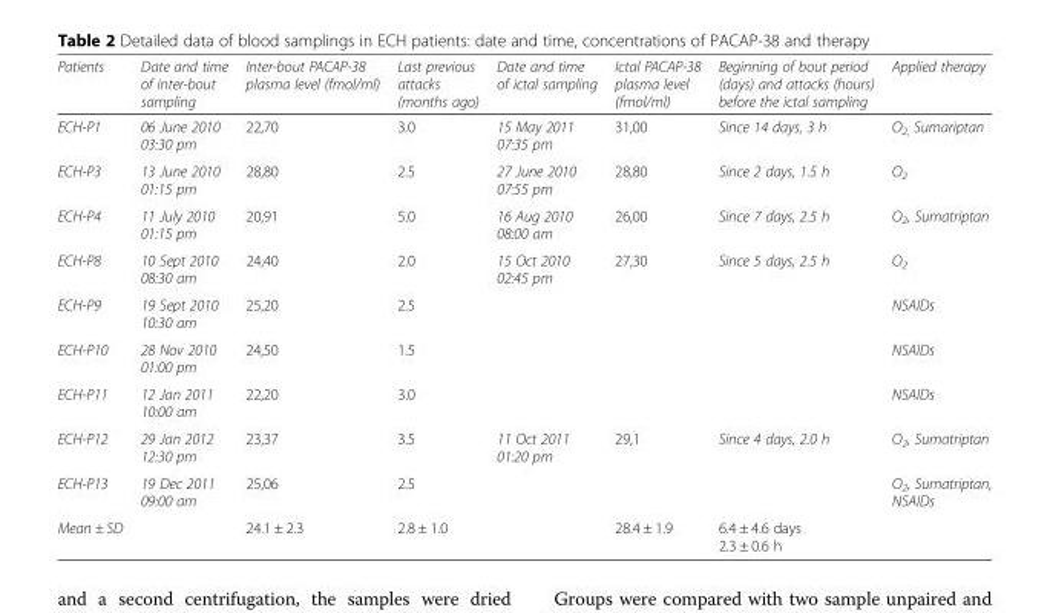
<table><thead><tr><td>Patients</td><td>Date and time of inter-bout sampling</td><td>Inter-bout PACAP-38 plasma level (fmol/ml)</td><td>Last previous attacks (months ago)</td><td>Date and time of ictal sampling</td><td>Ictal PACAP-38 plasma level (fmol/ml)</td><td>Beginning of bout period (days) and attacks (hours) before the ictal sampling</td><td>Applied therapy</td></tr></thead><tbody><tr><td>ECH-P1</td><td>06 June 2010 03:30 pm</td><td>22,70</td><td>3.0</td><td>15 May 2011 07:35 pm</td><td>31,00</td><td>Since 14 days, 3 h</td><td>O<sub>2,</sub> Sumariptan</td></tr><tr><td>ECH-P3</td><td>13 June 2010 01:15 pm</td><td>28,80</td><td>2.5</td><td>27 June 2010 07:55 pm</td><td>28,80</td><td>Since 2 days, 1.5 h</td><td>O<sub>2</sub></td></tr><tr><td>ECH-P4</td><td>11 July 2010 01:15 pm</td><td>20,91</td><td>5.0</td><td>16 Aug 2010 08:00 am</td><td>26,00</td><td>Since 7 days, 2.5 h</td><td>O<sub>2</sub>, Sumatriptan</td></tr><tr><td>ECH-P8</td><td>10 Sept 2010 08:30 am</td><td>24,40</td><td>2.0</td><td>15 Oct 2010 02:45 pm</td><td>27,30</td><td>Since 5 days, 2.5 h</td><td>O<sub>2</sub></td></tr><tr><td>ECH-P9</td><td>19 Sept 2010 10:30 am</td><td>25,20</td><td>2.5</td><td></td><td></td><td></td><td>NSAIDs</td></tr><tr><td>ECH-P10</td><td>28 Nov 2010 01:00 pm</td><td>24,50</td><td>1.5</td><td></td><td></td><td></td><td>NSAIDs</td></tr><tr><td>ECH-P11</td><td>12 Jan 2011 10:00 am</td><td>22,20</td><td>3.0</td><td></td><td></td><td></td><td>NSAIDs</td></tr><tr><td>ECH-P12</td><td>29 Jan 2012 12:30 pm</td><td>23,37</td><td>3.5</td><td>11 Oct 2011 01:20 pm</td><td>29,1</td><td>Since 4 days, 2.0 h</td><td>O<sub>2</sub>, Sumatriptan</td></tr><tr><td>ECH-P13</td><td>19 Dec 2011 09:00 am</td><td>25,06</td><td>2.5</td><td></td><td></td><td></td><td>O<sub>2</sub>, Sumatriptan, NSAIDs</td></tr><tr><td>Mean ± SD</td><td></td><td>24.1 ± 2.3</td><td>2.8 ± 1.0</td><td></td><td>28.4 ± 1.9</td><td>6.4 ± 4.6 days 2.3 ± 0.6 h</td><td></td></tr></tbody></table>